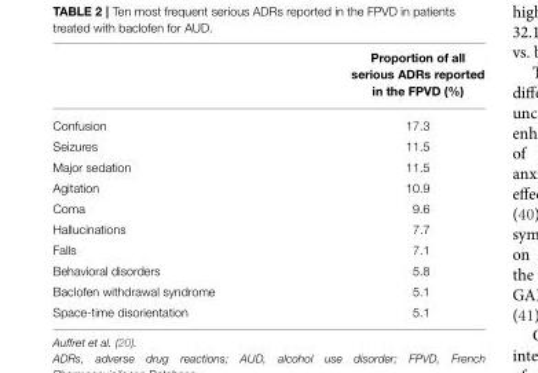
<table><thead><tr><td></td><td>Proportion of all serious ADRs reported in the FPVD (%)</td></tr></thead><tbody><tr><td>Confusion</td><td>17.3</td></tr><tr><td>Seizures</td><td>11.5</td></tr><tr><td>Major sedation</td><td>11.5</td></tr><tr><td>Agitation</td><td>10.9</td></tr><tr><td>Coma</td><td>9.6</td></tr><tr><td>Hallucinations</td><td>7.7</td></tr><tr><td>Falls</td><td>7.1</td></tr><tr><td>Behavioral disorders</td><td>5.8</td></tr><tr><td>Baclofen withdrawal syndrome</td><td>5.1</td></tr><tr><td>Space-time disorientation</td><td>5.1</td></tr></tbody></table>